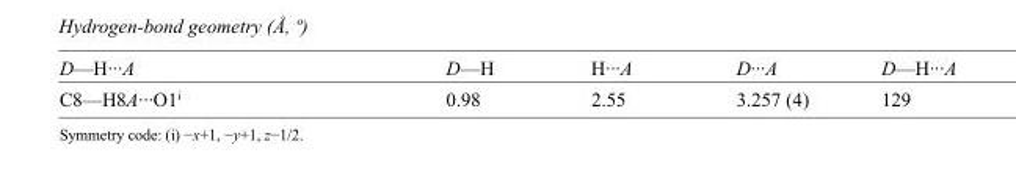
<table><tbody><tr><td>D—H···A</td><td>D—H</td><td>H···A</td><td>D···A</td><td>D—H···A</td></tr><tr><td>C8—H8A···O1<sup>i</sup></td><td>0.98</td><td>2.55</td><td>3.257 (4)</td><td>129</td></tr></tbody></table>